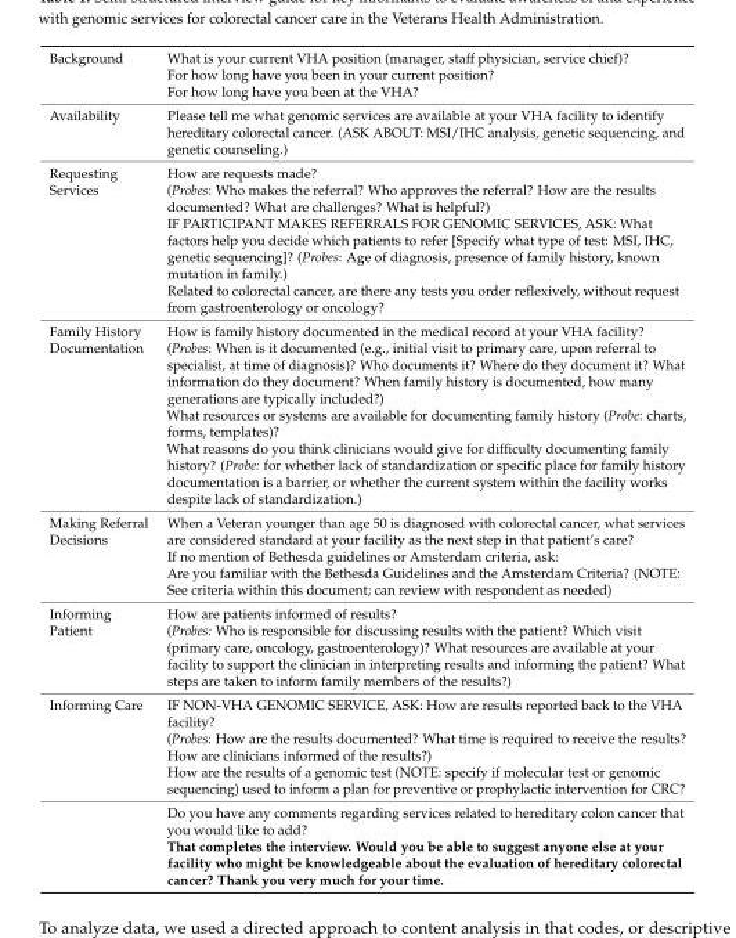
<table><tbody><tr><td>Background</td><td>What is your current VHA position (manager, staff physician, service chief)? For how long have you been in your current position? For how long have you been at the VHA?</td></tr><tr><td>Availability</td><td>Please tell me what genomic services are available at your VHA facility to identify hereditary colorectal cancer. (ASK ABOUT: MSI/IHC analysis, genetic sequencing, and genetic counseling.)</td></tr><tr><td>Requesting Services</td><td>How are requests made? (Probes: Who makes the referral? Who approves the referral? How are the results documented? What are challenges? What is helpful?) IF PARTICIPANT MAKES REFERRALS FOR GENOMIC SERVICES, ASK: What factors help you decide which patients to refer [Specify what type of test: MSI, IHC, genetic sequencing]? (Probes: Age of diagnosis, presence of family history, known mutation in family.) Related to colorectal cancer, are there any tests you order reflexively, without request from gastroenterology or oncology?</td></tr><tr><td>Family History Documentation</td><td>How is family history documented in the medical record at your VHA facility? (Probes: When is it documented (e.g., initial visit to primary care, upon referral to specialist, at time of diagnosis)? Who documents it? Where do they document it? What information do they document? When family history is documented, how many generations are typically included?) What resources or systems are available for documenting family history (Probe: charts, forms, templates)? What reasons do you think clinicians would give for difficulty documenting family history? (Probe: for whether lack of standardization or specific place for family history documentation is a barrier, or whether the current system within the facility works despite lack of standardization.)</td></tr><tr><td>Making Referral Decisions</td><td>When a Veteran younger than age 50 is diagnosed with colorectal cancer, what services are considered standard at your facility as the next step in that patient’s care? If no mention of Bethesda guidelines or Amsterdam criteria, ask: Are you familiar with the Bethesda Guidelines and the Amsterdam Criteria? (NOTE: See criteria within this document; can review with respondent as needed)</td></tr><tr><td>Informing Patient</td><td>How are patients informed of results? (Probes: Who is responsible for discussing results with the patient? Which visit (primary care, oncology, gastroenterology)? What resources are available at your facility to support the clinician in interpreting results and informing the patient? What steps are taken to inform family members of the results?)</td></tr><tr><td rowspan="2">Informing Care</td><td>IF NON-VHA GENOMIC SERVICE, ASK: How are results reported back to the VHA facility? (Probes: How are the results documented? What time is required to receive the results? How are clinicians informed of the results?) How are the results of a genomic test (NOTE: specify if molecular test or genomic sequencing) used to inform a plan for preventive or prophylactic intervention for CRC?</td></tr><tr><td>Do you have any comments regarding services related to hereditary colon cancer that you would like to add? That completes the interview. Would you be able to suggest anyone else at your facility who might be knowledgeable about the evaluation of hereditary colorectal cancer? Thank you very much for your time.</td></tr></tbody></table>